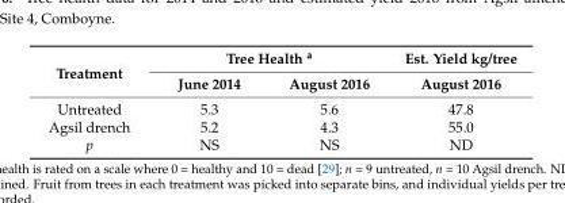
<table><thead><tr><td rowspan="2">Treatment</td><td colspan="2">Tree Health <sup>a</sup></td><td rowspan="2">Est. Yield kg/tree August 2016</td></tr><tr><td>June 2014</td><td>August 2016</td></tr></thead><tbody><tr><td>Untreated</td><td>5.3</td><td>5.6</td><td>47.8</td></tr><tr><td>Agsil drench</td><td>5.2</td><td>4.3</td><td>55.0</td></tr><tr><td>p</td><td>NS</td><td>NS</td><td>ND</td></tr></tbody></table>